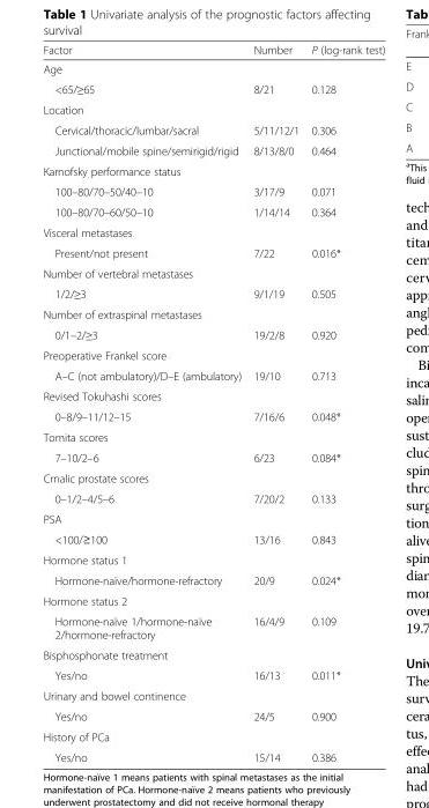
<table><thead><tr><td>Factor</td><td>Number</td><td>P (log-rank test)</td></tr></thead><tbody><tr><td colspan="3">Age</td></tr><tr><td>&lt;65/≥65</td><td>8/21</td><td>0.128</td></tr><tr><td colspan="3">Location</td></tr><tr><td>Cervical/thoracic/lumbar/sacral</td><td>5/11/12/1</td><td>0.306</td></tr><tr><td>Junctional/mobile spine/semirigid/rigid</td><td>8/13/8/0</td><td>0.464</td></tr><tr><td colspan="3">Karnofsky performance status</td></tr><tr><td>100–80/70–50/40–10</td><td>3/17/9</td><td>0.071</td></tr><tr><td>100–80/70–60/50–10</td><td>1/14/14</td><td>0.364</td></tr><tr><td colspan="3">Visceral metastases</td></tr><tr><td>Present/not present</td><td>7/22</td><td>0.016*</td></tr><tr><td colspan="3">Number of vertebral metastases</td></tr><tr><td>1/2/≥3</td><td>9/1/19</td><td>0.505</td></tr><tr><td colspan="3">Number of extraspinal metastases</td></tr><tr><td>0/1–2/≥3</td><td>19/2/8</td><td>0.920</td></tr><tr><td colspan="3">Preoperative Frankel score</td></tr><tr><td>A–C (not ambulatory)/D–E (ambulatory)</td><td>19/10</td><td>0.713</td></tr><tr><td colspan="3">Revised Tokuhashi scores</td></tr><tr><td>0–8/9–11/12–15</td><td>7/16/6</td><td>0.048*</td></tr><tr><td colspan="3">Tomita scores</td></tr><tr><td>7–10/2–6</td><td>6/23</td><td>0.084*</td></tr><tr><td colspan="3">Crnalic prostate scores</td></tr><tr><td>0–1/2–4/5–6</td><td>7/20/2</td><td>0.133</td></tr><tr><td colspan="3">PSA</td></tr><tr><td>&lt;100/≥100</td><td>13/16</td><td>0.843</td></tr><tr><td colspan="3">Hormone status 1</td></tr><tr><td>Hormone-naïve/hormone-refractory</td><td>20/9</td><td>0.024*</td></tr><tr><td colspan="3">Hormone status 2</td></tr><tr><td>Hormone-naïve 1/hormone-naïve 2/hormone-refractory</td><td>16/4/9</td><td>0.109</td></tr><tr><td colspan="3">Bisphosphonate treatment</td></tr><tr><td>Yes/no</td><td>16/13</td><td>0.011*</td></tr><tr><td colspan="3">Urinary and bowel continence</td></tr><tr><td>Yes/no</td><td>24/5</td><td>0.900</td></tr><tr><td colspan="3">History of PCa</td></tr><tr><td>Yes/no</td><td>15/14</td><td>0.386</td></tr></tbody></table>